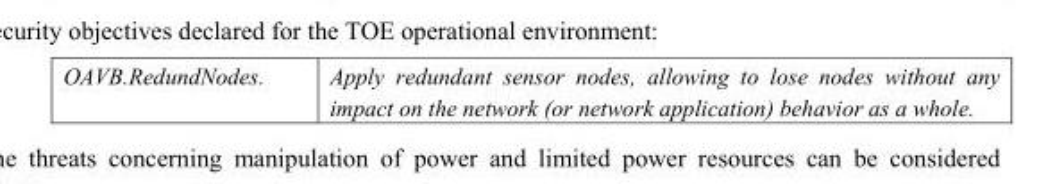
<table><tbody><tr><td>OAVB.RedundNodes.</td><td>Apply redundant sensor nodes, allowing to lose nodes without any impact on the network (or network application) behavior as a whole.</td></tr></tbody></table>